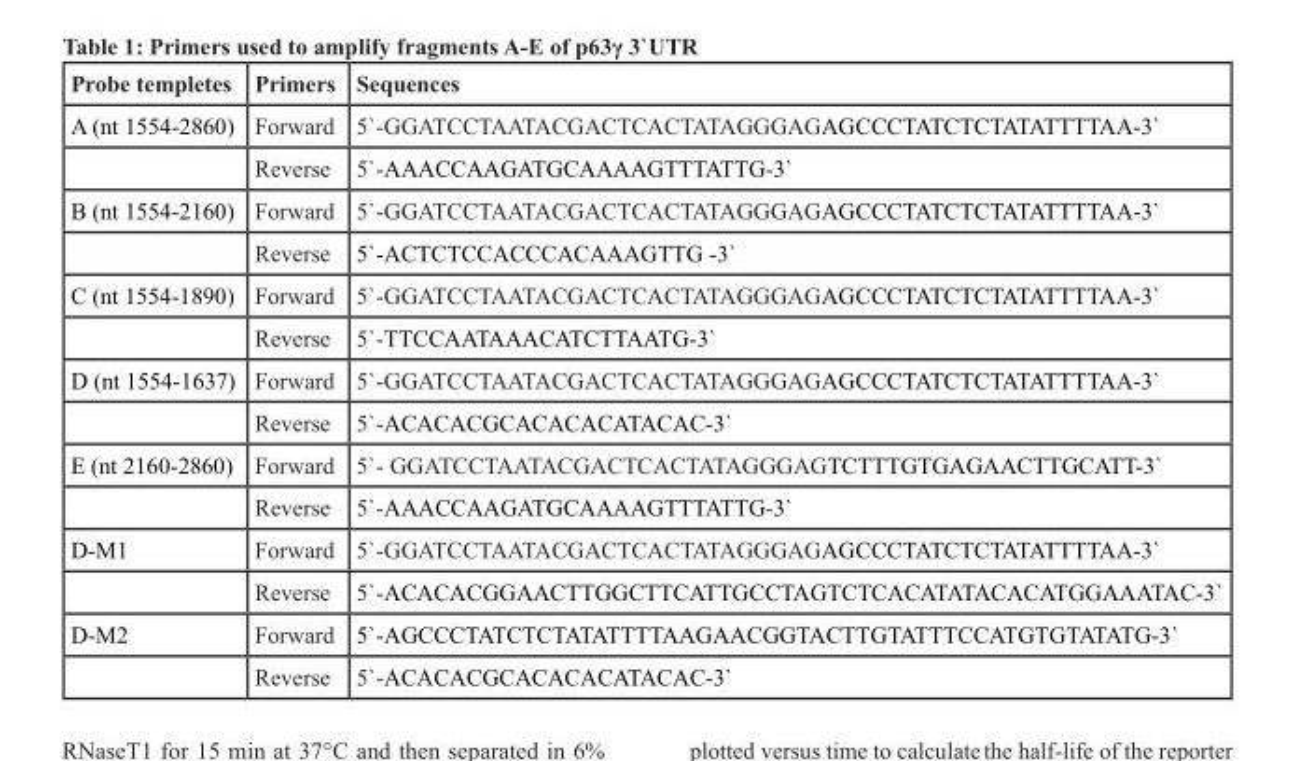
<table><thead><tr><td>Probe templetes</td><td>Primers</td><td>Sequences</td></tr></thead><tbody><tr><td rowspan="2">A (nt 1554-2860)</td><td>Forward</td><td>5`-GGATCCTAATACGACTCACTATAGGGAGAGCCCTATCTCTATATTTTAA-3`</td></tr><tr><td>Reverse</td><td>5`-AAACCAAGATGCAAAAGTTTATTG-3`</td></tr><tr><td rowspan="2">B (nt 1554-2160)</td><td>Forward</td><td>5`-GGATCCTAATACGACTCACTATAGGGAGAGCCCTATCTCTATATTTTAA-3`</td></tr><tr><td>Reverse</td><td>5`-ACTCTCCACCCACAAAGTTG -3`</td></tr><tr><td rowspan="2">C (nt 1554-1890)</td><td>Forward</td><td>5`-GGATCCTAATACGACTCACTATAGGGAGAGCCCTATCTCTATATTTTAA-3`</td></tr><tr><td>Reverse</td><td>5`-TTCCAATAAACATCTTAATG-3`</td></tr><tr><td rowspan="2">D (nt 1554-1637)</td><td>Forward</td><td>5`-GGATCCTAATACGACTCACTATAGGGAGAGCCCTATCTCTATATTTTAA-3`</td></tr><tr><td>Reverse</td><td>5`-ACACACGCACACACATACAC-3`</td></tr><tr><td rowspan="2">E (nt 2160-2860)</td><td>Forward</td><td>5`- GGATCCTAATACGACTCACTATAGGGAGTCTTTGTGAGAACTTGCATT-3`</td></tr><tr><td>Reverse</td><td>5`-AAACCAAGATGCAAAAGTTTATTG-3`</td></tr><tr><td rowspan="2">D-M1</td><td>Forward</td><td>5`-GGATCCTAATACGACTCACTATAGGGAGAGCCCTATCTCTATATTTTAA-3`</td></tr><tr><td>Reverse</td><td>5`-ACACACGGAACTTGGCTTCATTGCCTAGTCTCACATATACACATGGAAATAC-3`</td></tr><tr><td rowspan="2">D-M2</td><td>Forward</td><td>5`-AGCCCTATCTCTATATTTTAAGAACGGTACTTGTATTTCCATGTGTATATG-3`</td></tr><tr><td>Reverse</td><td>5`-ACACACGCACACACATACAC-3`</td></tr></tbody></table>